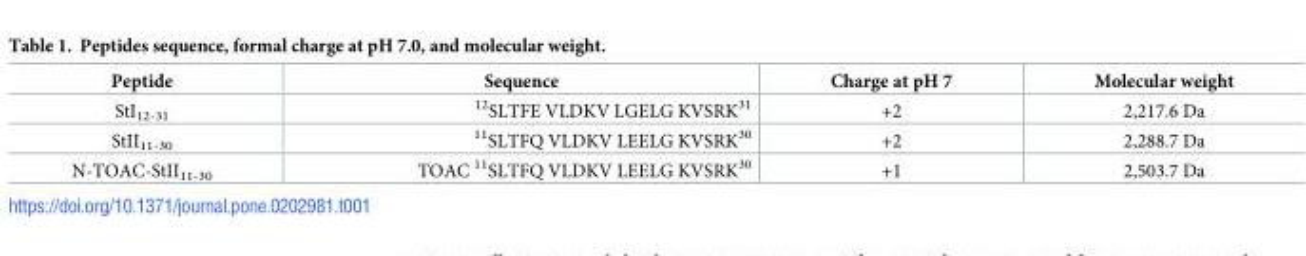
<table><thead><tr><td>Peptide</td><td>Sequence</td><td>Charge at pH 7</td><td>Molecular weight</td></tr></thead><tbody><tr><td>StI<sub>12-31</sub></td><td><sup>12</sup>SLTFE VLDKV LGELG KVSRK<sup>31</sup></td><td>+2</td><td>2,217.6 Da</td></tr><tr><td>StII<sub>11-30</sub></td><td><sup>11</sup>SLTFQ VLDKV LEELG KVSRK<sup>30</sup></td><td>+2</td><td>2,288.7 Da</td></tr><tr><td>N-TOAC-StII<sub>11-30</sub></td><td>TOAC <sup>11</sup>SLTFQ VLDKV LEELG KVSRK<sup>30</sup></td><td>+1</td><td>2,503.7 Da</td></tr></tbody></table>